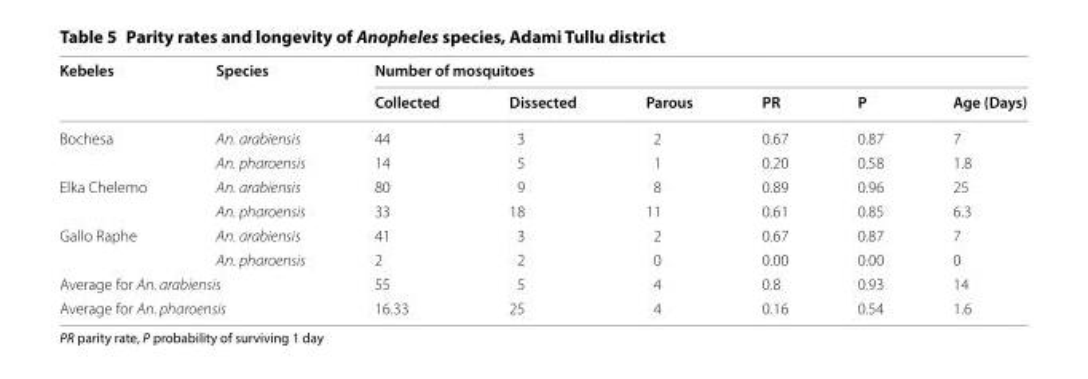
<table><thead><tr><td rowspan="2">Kebeles</td><td rowspan="2">Species</td><td colspan="6">Number of mosquitoes</td></tr><tr><td>Collected</td><td>Dissected</td><td>Parous</td><td>PR</td><td>P</td><td>Age (Days)</td></tr></thead><tbody><tr><td rowspan="2">Bochesa</td><td>An. arabiensis</td><td>44</td><td>3</td><td>2</td><td>0.67</td><td>0.87</td><td>7</td></tr><tr><td>An. pharoensis</td><td>14</td><td>5</td><td>1</td><td>0.20</td><td>0.58</td><td>1.8</td></tr><tr><td rowspan="2">Elka Chelemo</td><td>An. arabiensis</td><td>80</td><td>9</td><td>8</td><td>0.89</td><td>0.96</td><td>25</td></tr><tr><td>An. pharoensis</td><td>33</td><td>18</td><td>11</td><td>0.61</td><td>0.85</td><td>6.3</td></tr><tr><td rowspan="2">Gallo Raphe</td><td>An. arabiensis</td><td>41</td><td>3</td><td>2</td><td>0.67</td><td>0.87</td><td>7</td></tr><tr><td>An. pharoensis</td><td>2</td><td>2</td><td>0</td><td>0.00</td><td>0.00</td><td>0</td></tr><tr><td colspan="2">Average for An. arabiensis</td><td>55</td><td>5</td><td>4</td><td>0.8</td><td>0.93</td><td>14</td></tr><tr><td colspan="2">Average for An. pharoensis</td><td>16.33</td><td>25</td><td>4</td><td>0.16</td><td>0.54</td><td>1.6</td></tr></tbody></table>